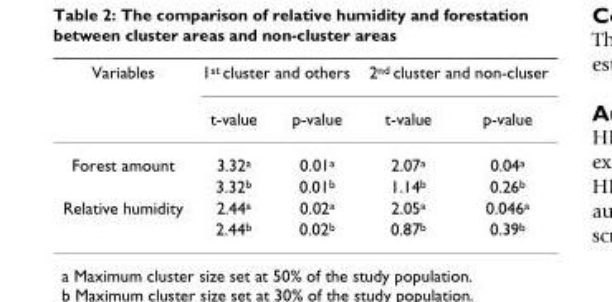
<table><thead><tr><td rowspan="2">Variables</td><td colspan="2">1<sup>st</sup> cluster and others</td><td colspan="2">2<sup>nd</sup> cluster and non-cluser</td></tr><tr><td>t-value</td><td>p-value</td><td>t-value</td><td>p-value</td></tr></thead><tbody><tr><td rowspan="2">Forest amount</td><td>3.32<sup>a</sup></td><td>0.01<sup>a</sup></td><td>2.07<sup>a</sup></td><td>0.04<sup>a</sup></td></tr><tr><td>3.32<sup>b</sup></td><td>0.01<sup>b</sup></td><td>1.14<sup>b</sup></td><td>0.26<sup>b</sup></td></tr><tr><td rowspan="2">Relative humidity</td><td>2.44<sup>a</sup></td><td>0.02<sup>a</sup></td><td>2.05<sup>a</sup></td><td>0.046<sup>a</sup></td></tr><tr><td>2.44<sup>b</sup></td><td>0.02<sup>b</sup></td><td>0.87<sup>b</sup></td><td>0.39<sup>b</sup></td></tr></tbody></table>